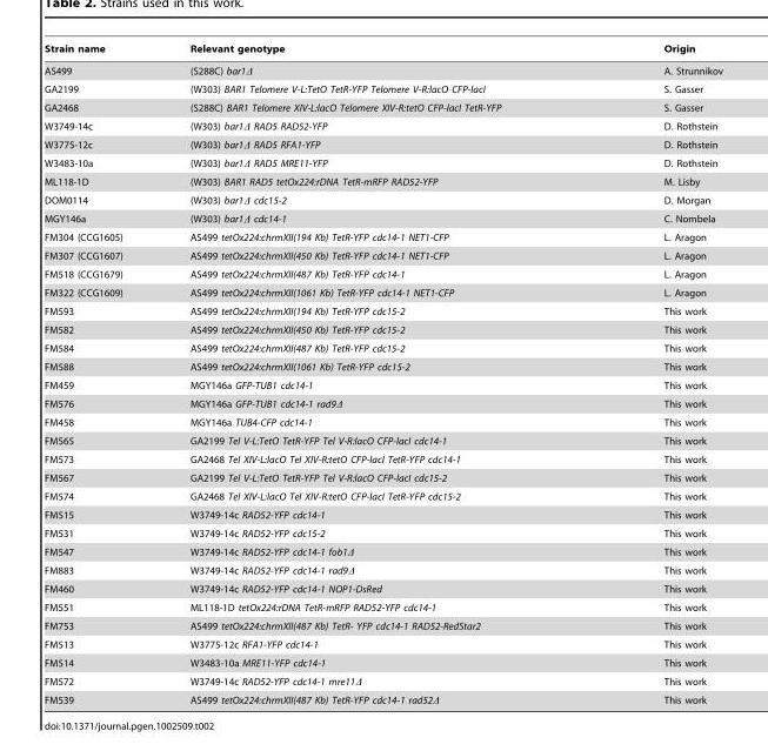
<table><thead><tr><td>Strain name</td><td>Relevant genotype</td><td>Origin</td></tr></thead><tbody><tr><td>AS499</td><td>(S288C) bar1Δ</td><td>A. Strunnikov</td></tr><tr><td>GA2199</td><td>(W303) BAR1 Telomere V-L:TetO TetR-YFP Telomere V-R:lacO CFP-lacI</td><td>S. Gasser</td></tr><tr><td>GA2468</td><td>(S288C) BAR1 Telomere XIV-L:lacO Telomere XIV-R:tetO CFP-lacI TetR-YFP</td><td>S. Gasser</td></tr><tr><td>W3749-14c</td><td>(W303) bar1Δ RAD5 RAD52-YFP</td><td>D. Rothstein</td></tr><tr><td>W3775-12c</td><td>(W303) bar1Δ RAD5 RFA1-YFP</td><td>D. Rothstein</td></tr><tr><td>W3483-10a</td><td>(W303) bar1Δ RAD5 MRE11-YFP</td><td>D. Rothstein</td></tr><tr><td>ML118-1D</td><td>(W303) BAR1 RAD5 tetOx224:rDNA TetR-mRFP RAD52-YFP</td><td>M. Lisby</td></tr><tr><td>DOM0114</td><td>(W303) bar1Δ cdc15-2</td><td>D. Morgan</td></tr><tr><td>MGY146a</td><td>(W303) bar1Δ cdc14-1</td><td>C. Nombela</td></tr><tr><td>FM304 (CCG1605)</td><td>AS499 tetOx224:chrmXII(194 Kb) TetR-YFP cdc14-1 NET1-CFP</td><td>L. Aragon</td></tr><tr><td>FM307 (CCG1607)</td><td>AS499 tetOx224:chrmXII(450 Kb) TetR-YFP cdc14-1 NET1-CFP</td><td>L. Aragon</td></tr><tr><td>FM518 (CCG1679)</td><td>AS499 tetOx224:chrmXII(487 Kb) TetR-YFP cdc14-1</td><td>L. Aragon</td></tr><tr><td>FM322 (CCG1609)</td><td>AS499 tetOx224:chrmXII(1061 Kb) TetR-YFP cdc14-1 NET1-CFP</td><td>L. Aragon</td></tr><tr><td>FM593</td><td>AS499 tetOx224:chrmXII(194 Kb) TetR-YFP cdc15-2</td><td>This work</td></tr><tr><td>FM582</td><td>AS499 tetOx224:chrmXII(450 Kb) TetR-YFP cdc15-2</td><td>This work</td></tr><tr><td>FM584</td><td>AS499 tetOx224:chrmXII(487 Kb) TetR-YFP cdc15-2</td><td>This work</td></tr><tr><td>FM588</td><td>AS499 tetOx224:chrmXII(1061 Kb) TetR-YFP cdc15-2</td><td>This work</td></tr><tr><td>FM459</td><td>MGY146a GFP-TUB1 cdc14-1</td><td>This work</td></tr><tr><td>FM576</td><td>MGY146a GFP-TUB1 cdc14-1 rad9Δ</td><td>This work</td></tr><tr><td>FM458</td><td>MGY146a TUB4-CFP cdc14-1</td><td>This work</td></tr><tr><td>FM565</td><td>GA2199 Tel V-L:TetO TetR-YFP Tel V-R:lacO CFP-lacI cdc14-1</td><td>This work</td></tr><tr><td>FM573</td><td>GA2468 Tel XIV-L:lacO Tel XIV-R:tetO CFP-lacI TetR-YFP cdc14-1</td><td>This work</td></tr><tr><td>FM567</td><td>GA2199 Tel V-L:TetO TetR-YFP Tel V-R:lacO CFP-lacI cdc15-2</td><td>This work</td></tr><tr><td>FM574</td><td>GA2468 Tel XIV-L:lacO Tel XIV-R:tetO CFP-lacI TetR-YFP cdc15-2</td><td>This work</td></tr><tr><td>FM515</td><td>W3749-14c RAD52-YFP cdc14-1</td><td>This work</td></tr><tr><td>FM531</td><td>W3749-14c RAD52-YFP cdc15-2</td><td>This work</td></tr><tr><td>FM547</td><td>W3749-14c RAD52-YFP cdc14-1 fob1Δ</td><td>This work</td></tr><tr><td>FM883</td><td>W3749-14c RAD52-YFP cdc14-1 rad9Δ</td><td>This work</td></tr><tr><td>FM460</td><td>W3749-14c RAD52-YFP cdc14-1 NOP1-DsRed</td><td>This work</td></tr><tr><td>FM551</td><td>ML118-1D tetOx224:rDNA TetR-mRFP RAD52-YFP cdc14-1</td><td>This work</td></tr><tr><td>FM753</td><td>AS499 tetOx224:chrmXII(487 Kb) TetR- YFP cdc14-1 RAD52-RedStar2</td><td>This work</td></tr><tr><td>FM513</td><td>W3775-12c RFA1-YFP cdc14-1</td><td>This work</td></tr><tr><td>FM514</td><td>W3483-10a MRE11-YFP cdc14-1</td><td>This work</td></tr><tr><td>FM572</td><td>W3749-14c RAD52-YFP cdc14-1 mre11Δ</td><td>This work</td></tr><tr><td>FM539</td><td>AS499 tetOx224:chrmXII(487 Kb) TetR-YFP cdc14-1 rad52Δ</td><td>This work</td></tr></tbody></table>